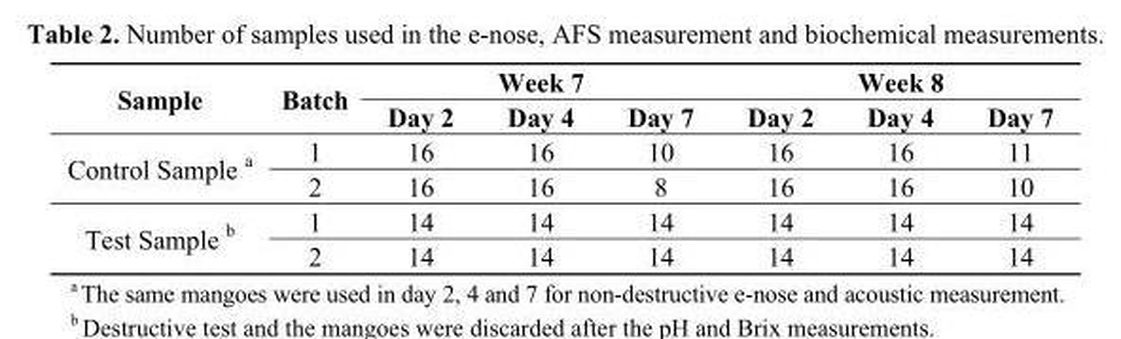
<table><thead><tr><td rowspan="2">Sample</td><td rowspan="2">Batch</td><td colspan="3">Week 7</td><td colspan="3">Week 8</td></tr><tr><td>Day 2</td><td>Day 4</td><td>Day 7</td><td>Day 2</td><td>Day 4</td><td>Day 7</td></tr></thead><tbody><tr><td rowspan="2">Control Sample <sup>a</sup></td><td>1</td><td>16</td><td>16</td><td>10</td><td>16</td><td>16</td><td>11</td></tr><tr><td>2</td><td>16</td><td>16</td><td>8</td><td>16</td><td>16</td><td>10</td></tr><tr><td rowspan="2">Test Sample <sup>b</sup></td><td>1</td><td>14</td><td>14</td><td>14</td><td>14</td><td>14</td><td>14</td></tr><tr><td>2</td><td>14</td><td>14</td><td>14</td><td>14</td><td>14</td><td>14</td></tr></tbody></table>